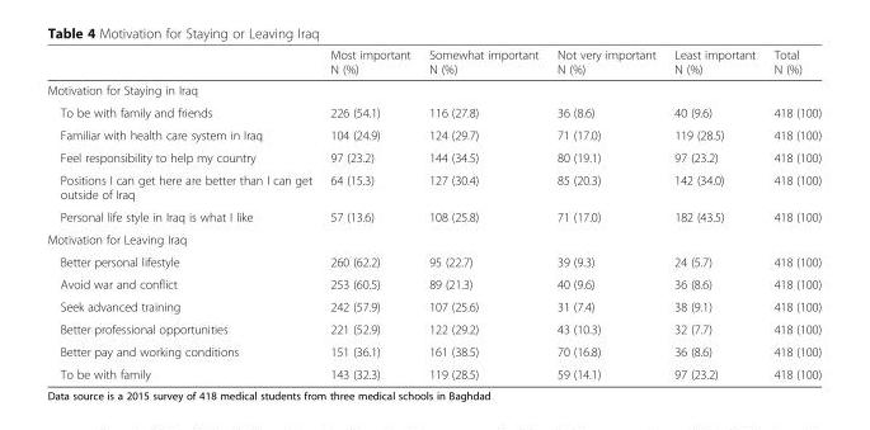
<table><thead><tr><td></td><td>Most important N (%)</td><td>Somewhat important N (%)</td><td>Not very important N (%)</td><td>Least important N (%)</td><td>Total N (%)</td></tr></thead><tbody><tr><td colspan="6">Motivation for Staying in Iraq</td></tr><tr><td>To be with family and friends</td><td>226 (54.1)</td><td>116 (27.8)</td><td>36 (8.6)</td><td>40 (9.6)</td><td>418 (100)</td></tr><tr><td>Familiar with health care system in Iraq</td><td>104 (24.9)</td><td>124 (29.7)</td><td>71 (17.0)</td><td>119 (28.5)</td><td>418 (100)</td></tr><tr><td>Feel responsibility to help my country</td><td>97 (23.2)</td><td>144 (34.5)</td><td>80 (19.1)</td><td>97 (23.2)</td><td>418 (100)</td></tr><tr><td>Positions I can get here are better than I can get outside of Iraq</td><td>64 (15.3)</td><td>127 (30.4)</td><td>85 (20.3)</td><td>142 (34.0)</td><td>418 (100)</td></tr><tr><td>Personal life style in Iraq is what I like</td><td>57 (13.6)</td><td>108 (25.8)</td><td>71 (17.0)</td><td>182 (43.5)</td><td>418 (100)</td></tr><tr><td colspan="6">Motivation for Leaving Iraq</td></tr><tr><td>Better personal lifestyle</td><td>260 (62.2)</td><td>95 (22.7)</td><td>39 (9.3)</td><td>24 (5.7)</td><td>418 (100)</td></tr><tr><td>Avoid war and conflict</td><td>253 (60.5)</td><td>89 (21.3)</td><td>40 (9.6)</td><td>36 (8.6)</td><td>418 (100)</td></tr><tr><td>Seek advanced training</td><td>242 (57.9)</td><td>107 (25.6)</td><td>31 (7.4)</td><td>38 (9.1)</td><td>418 (100)</td></tr><tr><td>Better professional opportunities</td><td>221 (52.9)</td><td>122 (29.2)</td><td>43 (10.3)</td><td>32 (7.7)</td><td>418 (100)</td></tr><tr><td>Better pay and working conditions</td><td>151 (36.1)</td><td>161 (38.5)</td><td>70 (16.8)</td><td>36 (8.6)</td><td>418 (100)</td></tr><tr><td>To be with family</td><td>143 (32.3)</td><td>119 (28.5)</td><td>59 (14.1)</td><td>97 (23.2)</td><td>418 (100)</td></tr></tbody></table>